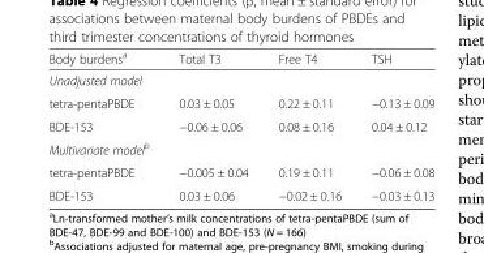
<table><thead><tr><td>Body burdens<sup>a</sup></td><td>Total T3</td><td>Free T4</td><td>TSH</td></tr></thead><tbody><tr><td colspan="4">Unadjusted model</td></tr><tr><td>tetra-pentaPBDE</td><td>0.03 ± 0.05</td><td>0.22 ± 0.11</td><td>−0.13 ± 0.09</td></tr><tr><td>BDE-153</td><td>−0.06 ± 0.06</td><td>0.08 ± 0.16</td><td>0.04 ± 0.12</td></tr><tr><td colspan="4">Multivariate model<sup>b</sup></td></tr><tr><td>tetra-pentaPBDE</td><td>−0.005 ± 0.04</td><td>0.19 ± 0.11</td><td>−0.06 ± 0.08</td></tr><tr><td>BDE-153</td><td>0.03 ± 0.06</td><td>−0.02 ± 0.16</td><td>−0.03 ± 0.13</td></tr></tbody></table>